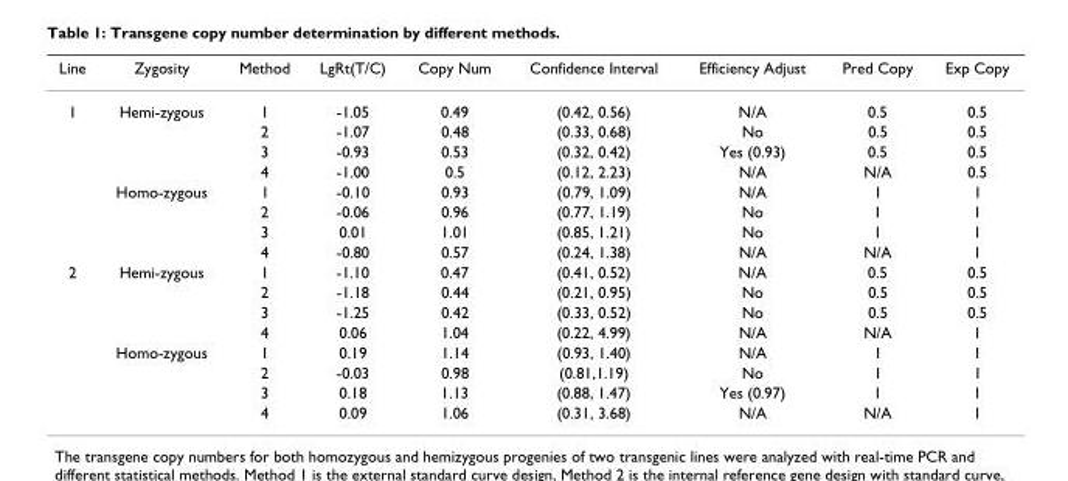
<table><thead><tr><td>Line</td><td>Zygosity</td><td>Method</td><td>LgRt(T/C)</td><td>Copy Num</td><td>Confidence Interval</td><td>Efficiency Adjust</td><td>Pred Copy</td><td>Exp Copy</td></tr></thead><tbody><tr><td rowspan="8">1</td><td>Hemi-zygous</td><td>1</td><td>-1.05</td><td>0.49</td><td>(0.42, 0.56)</td><td>N/A</td><td>0.5</td><td>0.5</td></tr><tr><td></td><td>2</td><td>-1.07</td><td>0.48</td><td>(0.33, 0.68)</td><td>No</td><td>0.5</td><td>0.5</td></tr><tr><td></td><td>3</td><td>-0.93</td><td>0.53</td><td>(0.32, 0.42)</td><td>Yes (0.93)</td><td>0.5</td><td>0.5</td></tr><tr><td></td><td>4</td><td>-1.00</td><td>0.5</td><td>(0.12, 2.23)</td><td>N/A</td><td>N/A</td><td>0.5</td></tr><tr><td>Homo-zygous</td><td>1</td><td>-0.10</td><td>0.93</td><td>(0.79, 1.09)</td><td>N/A</td><td>1</td><td>1</td></tr><tr><td></td><td>2</td><td>-0.06</td><td>0.96</td><td>(0.77, 1.19)</td><td>No</td><td>1</td><td>1</td></tr><tr><td></td><td>3</td><td>0.01</td><td>1.01</td><td>(0.85, 1.21)</td><td>No</td><td>1</td><td>1</td></tr><tr><td></td><td>4</td><td>-0.80</td><td>0.57</td><td>(0.24, 1.38)</td><td>N/A</td><td>N/A</td><td>1</td></tr><tr><td rowspan="8">2</td><td>Hemi-zygous</td><td>1</td><td>-1.10</td><td>0.47</td><td>(0.41, 0.52)</td><td>N/A</td><td>0.5</td><td>0.5</td></tr><tr><td></td><td>2</td><td>-1.18</td><td>0.44</td><td>(0.21, 0.95)</td><td>No</td><td>0.5</td><td>0.5</td></tr><tr><td></td><td>3</td><td>-1.25</td><td>0.42</td><td>(0.33, 0.52)</td><td>No</td><td>0.5</td><td>0.5</td></tr><tr><td></td><td>4</td><td>0.06</td><td>1.04</td><td>(0.22, 4.99)</td><td>N/A</td><td>N/A</td><td>1</td></tr><tr><td>Homo-zygous</td><td>1</td><td>0.19</td><td>1.14</td><td>(0.93, 1.40)</td><td>N/A</td><td>1</td><td>1</td></tr><tr><td></td><td>2</td><td>-0.03</td><td>0.98</td><td>(0.81,1.19)</td><td>No</td><td>1</td><td>1</td></tr><tr><td></td><td>3</td><td>0.18</td><td>1.13</td><td>(0.88, 1.47)</td><td>Yes (0.97)</td><td>1</td><td>1</td></tr><tr><td></td><td>4</td><td>0.09</td><td>1.06</td><td>(0.31, 3.68)</td><td>N/A</td><td>N/A</td><td>1</td></tr></tbody></table>